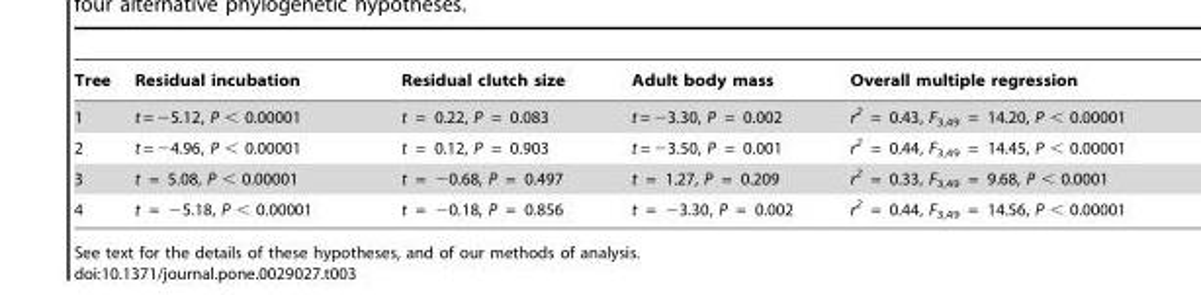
<table><thead><tr><td>Tree</td><td>Residual incubation</td><td>Residual clutch size</td><td>Adult body mass</td><td>Overall multiple regression</td></tr></thead><tbody><tr><td>1</td><td>t = −5.12, P &lt; 0.00001</td><td>t = 0.22, P = 0.083</td><td>t = −3.30, P = 0.002</td><td>r<sup>2</sup> = 0.43, F<sub>3,49</sub> = 14.20, P &lt; 0.00001</td></tr><tr><td>2</td><td>t = −4.96, P &lt; 0.00001</td><td>t = 0.12, P = 0.903</td><td>t = −3.50, P = 0.001</td><td>r<sup>2</sup> = 0.44, F<sub>3,49</sub> = 14.45, P &lt; 0.00001</td></tr><tr><td>3</td><td>t = 5.08, P &lt; 0.00001</td><td>t = −0.68, P = 0.497</td><td>t = 1.27, P = 0.209</td><td>r<sup>2</sup> = 0.33, F<sub>3,49</sub> = 9.68, P &lt; 0.0001</td></tr><tr><td>4</td><td>t = −5.18, P &lt; 0.00001</td><td>t = −0.18, P = 0.856</td><td>t = −3.30, P = 0.002</td><td>r<sup>2</sup> = 0.44, F<sub>3,49</sub> = 14.56, P &lt; 0.00001</td></tr></tbody></table>